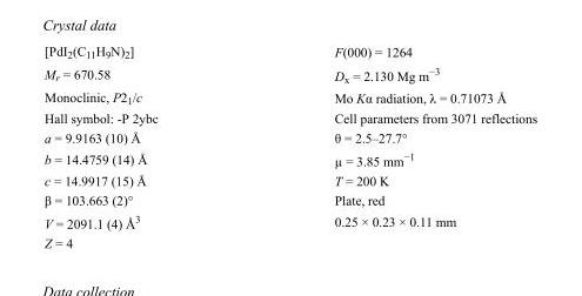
<table><tbody><tr><td>[PdI<sub>2</sub>(C<sub>11</sub>H<sub>9</sub>N)<sub>2</sub>]</td><td>F(000) = 1264</td></tr><tr><td>M<sub>r</sub> = 670.58</td><td>D<sub>x</sub> = 2.130 Mg m<sup>−3</sup></td></tr><tr><td>Monoclinic, P2<sub>1</sub>/c</td><td>Mo Kα radiation, λ = 0.71073 Å</td></tr><tr><td>Hall symbol: -P 2ybc</td><td>Cell parameters from 3071 reflections</td></tr><tr><td>a = 9.9163 (10) Å</td><td>θ = 2.5–27.7°</td></tr><tr><td>b = 14.4759 (14) Å</td><td>µ = 3.85 mm<sup>−1</sup></td></tr><tr><td>c = 14.9917 (15) Å</td><td>T = 200 K</td></tr><tr><td>β = 103.663 (2)°</td><td>Plate, red</td></tr><tr><td>V = 2091.1 (4) Å<sup>3</sup></td><td>0.25 × 0.23 × 0.11 mm</td></tr><tr><td>Z = 4</td><td></td></tr></tbody></table>